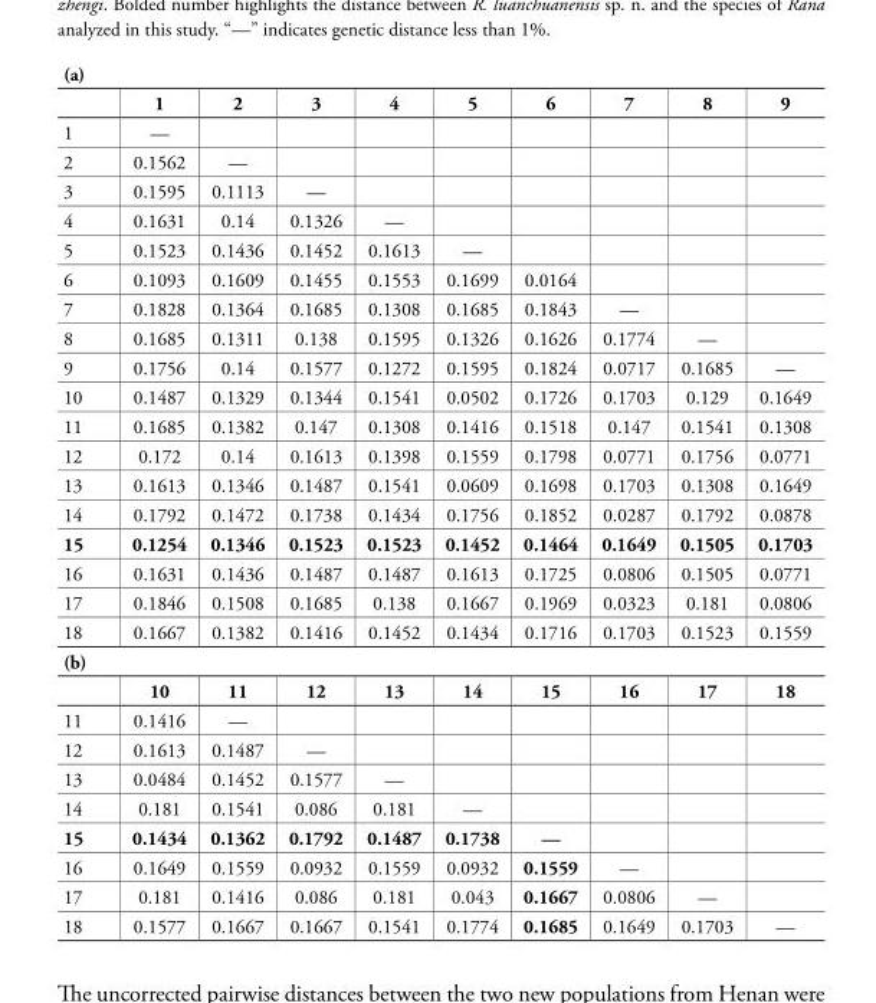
<table><tbody><tr><td colspan="10">(a)</td></tr><tr><td></td><td>1</td><td>2</td><td>3</td><td>4</td><td>5</td><td>6</td><td>7</td><td>8</td><td>9</td></tr><tr><td>1</td><td>—</td><td></td><td></td><td></td><td></td><td></td><td></td><td></td><td></td></tr><tr><td>2</td><td>0.1562</td><td>—</td><td></td><td></td><td></td><td></td><td></td><td></td><td></td></tr><tr><td>3</td><td>0.1595</td><td>0.1113</td><td>—</td><td></td><td></td><td></td><td></td><td></td><td></td></tr><tr><td>4</td><td>0.1631</td><td>0.14</td><td>0.1326</td><td>—</td><td></td><td></td><td></td><td></td><td></td></tr><tr><td>5</td><td>0.1523</td><td>0.1436</td><td>0.1452</td><td>0.1613</td><td>—</td><td></td><td></td><td></td><td></td></tr><tr><td>6</td><td>0.1093</td><td>0.1609</td><td>0.1455</td><td>0.1553</td><td>0.1699</td><td>0.0164</td><td></td><td></td><td></td></tr><tr><td>7</td><td>0.1828</td><td>0.1364</td><td>0.1685</td><td>0.1308</td><td>0.1685</td><td>0.1843</td><td>—</td><td></td><td></td></tr><tr><td>8</td><td>0.1685</td><td>0.1311</td><td>0.138</td><td>0.1595</td><td>0.1326</td><td>0.1626</td><td>0.1774</td><td>—</td><td></td></tr><tr><td>9</td><td>0.1756</td><td>0.14</td><td>0.1577</td><td>0.1272</td><td>0.1595</td><td>0.1824</td><td>0.0717</td><td>0.1685</td><td>—</td></tr><tr><td>10</td><td>0.1487</td><td>0.1329</td><td>0.1344</td><td>0.1541</td><td>0.0502</td><td>0.1726</td><td>0.1703</td><td>0.129</td><td>0.1649</td></tr><tr><td>11</td><td>0.1685</td><td>0.1382</td><td>0.147</td><td>0.1308</td><td>0.1416</td><td>0.1518</td><td>0.147</td><td>0.1541</td><td>0.1308</td></tr><tr><td>12</td><td>0.172</td><td>0.14</td><td>0.1613</td><td>0.1398</td><td>0.1559</td><td>0.1798</td><td>0.0771</td><td>0.1756</td><td>0.0771</td></tr><tr><td>13</td><td>0.1613</td><td>0.1346</td><td>0.1487</td><td>0.1541</td><td>0.0609</td><td>0.1698</td><td>0.1703</td><td>0.1308</td><td>0.1649</td></tr><tr><td>14</td><td>0.1792</td><td>0.1472</td><td>0.1738</td><td>0.1434</td><td>0.1756</td><td>0.1852</td><td>0.0287</td><td>0.1792</td><td>0.0878</td></tr><tr><td>15</td><td>0.1254</td><td>0.1346</td><td>0.1523</td><td>0.1523</td><td>0.1452</td><td>0.1464</td><td>0.1649</td><td>0.1505</td><td>0.1703</td></tr><tr><td>16</td><td>0.1631</td><td>0.1436</td><td>0.1487</td><td>0.1487</td><td>0.1613</td><td>0.1725</td><td>0.0806</td><td>0.1505</td><td>0.0771</td></tr><tr><td>17</td><td>0.1846</td><td>0.1508</td><td>0.1685</td><td>0.138</td><td>0.1667</td><td>0.1969</td><td>0.0323</td><td>0.181</td><td>0.0806</td></tr><tr><td>18</td><td>0.1667</td><td>0.1382</td><td>0.1416</td><td>0.1452</td><td>0.1434</td><td>0.1716</td><td>0.1703</td><td>0.1523</td><td>0.1559</td></tr><tr><td colspan="10">(b)</td></tr><tr><td></td><td>10</td><td>11</td><td>12</td><td>13</td><td>14</td><td>15</td><td>16</td><td>17</td><td>18</td></tr><tr><td>11</td><td>0.1416</td><td>—</td><td></td><td></td><td></td><td></td><td></td><td></td><td></td></tr><tr><td>12</td><td>0.1613</td><td>0.1487</td><td>—</td><td></td><td></td><td></td><td></td><td></td><td></td></tr><tr><td>13</td><td>0.0484</td><td>0.1452</td><td>0.1577</td><td>—</td><td></td><td></td><td></td><td></td><td></td></tr><tr><td>14</td><td>0.181</td><td>0.1541</td><td>0.086</td><td>0.181</td><td>—</td><td></td><td></td><td></td><td></td></tr><tr><td>15</td><td>0.1434</td><td>0.1362</td><td>0.1792</td><td>0.1487</td><td>0.1738</td><td>—</td><td></td><td></td><td></td></tr><tr><td>16</td><td>0.1649</td><td>0.1559</td><td>0.0932</td><td>0.1559</td><td>0.0932</td><td>0.1559</td><td>—</td><td></td><td></td></tr><tr><td>17</td><td>0.181</td><td>0.1416</td><td>0.086</td><td>0.181</td><td>0.043</td><td>0.1667</td><td>0.0806</td><td>—</td><td></td></tr><tr><td>18</td><td>0.1577</td><td>0.1667</td><td>0.1667</td><td>0.1541</td><td>0.1774</td><td>0.1685</td><td>0.1649</td><td>0.1703</td><td>—</td></tr></tbody></table>